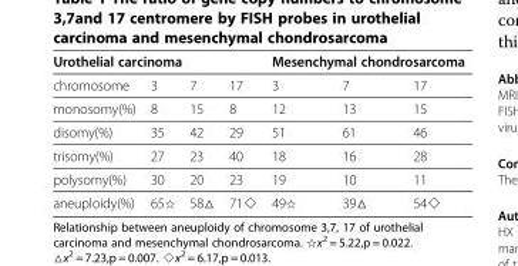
<table><thead><tr><td colspan="4">Urothelial carcinoma</td><td colspan="3">Mesenchymal chondrosarcoma</td></tr><tr><td>chromosome</td><td>3</td><td>7</td><td>17</td><td>3</td><td>7</td><td>17</td></tr></thead><tbody><tr><td>monosomy(%)</td><td>8</td><td>15</td><td>8</td><td>12</td><td>13</td><td>15</td></tr><tr><td>disomy(%)</td><td>35</td><td>42</td><td>29</td><td>51</td><td>61</td><td>46</td></tr><tr><td>trisomy(%)</td><td>27</td><td>23</td><td>40</td><td>18</td><td>16</td><td>28</td></tr><tr><td>polysomy(%)</td><td>30</td><td>20</td><td>23</td><td>19</td><td>10</td><td>11</td></tr><tr><td>aneuploidy(%)</td><td>65☆</td><td>58△</td><td>71◇</td><td>49☆</td><td>39△</td><td>54◇</td></tr></tbody></table>